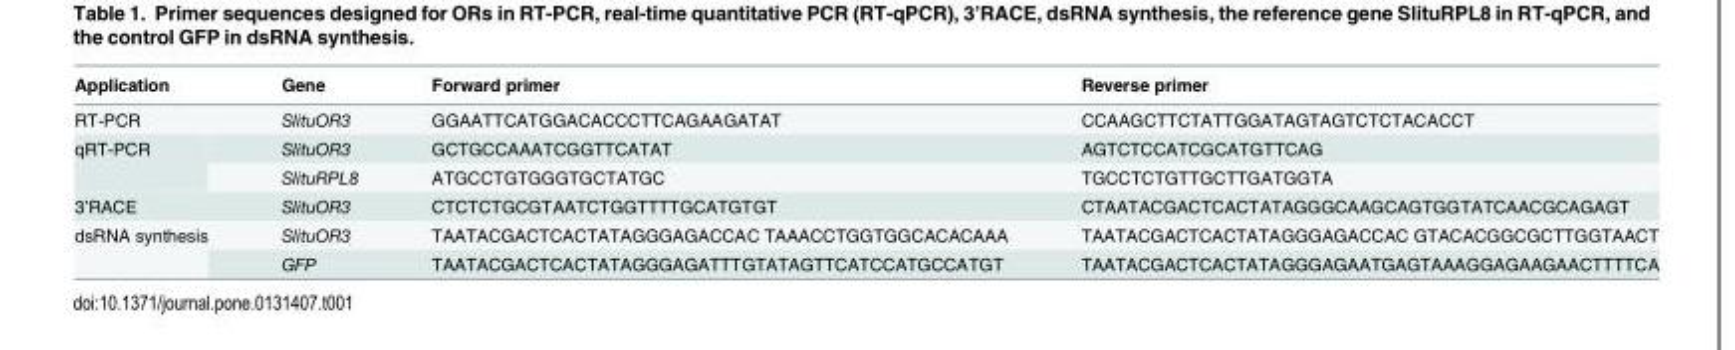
<table><thead><tr><td>Application</td><td>Gene</td><td>Forward primer</td><td>Reverse primer</td></tr></thead><tbody><tr><td>RT-PCR</td><td>SlituOR3</td><td>GGAATTCATGGACACCCTTCAGAAGATAT</td><td>CCAAGCTTCTATTGGATAGTAGTCTCTACACCT</td></tr><tr><td rowspan="2">qRT-PCR</td><td>SlituOR3</td><td>GCTGCCAAATCGGTTCATAT</td><td>AGTCTCCATCGCATGTTCAG</td></tr><tr><td>SlituRPL8</td><td>ATGCCTGTGGGTGCTATGC</td><td>TGCCTCTGTTGCTTGATGGTA</td></tr><tr><td>3’RACE</td><td>SlituOR3</td><td>CTCTCTGCGTAATCTGGTTTTGCATGTGT</td><td>CTAATACGACTCACTATAGGGCAAGCAGTGGTATCAACGCAGAGT</td></tr><tr><td rowspan="2">dsRNA synthesis</td><td>SlituOR3</td><td>TAATACGACTCACTATAGGGAGACCAC TAAACCTGGTGGCACACAAA</td><td>TAATACGACTCACTATAGGGAGACCAC GTACACGGCGCTTGGTAACT</td></tr><tr><td>GFP</td><td>TAATACGACTCACTATAGGGAGATTTGTATAGTTCATCCATGCCATGT</td><td>TAATACGACTCACTATAGGGAGAATGAGTAAAGGAGAAGAACTTTTCA</td></tr></tbody></table>